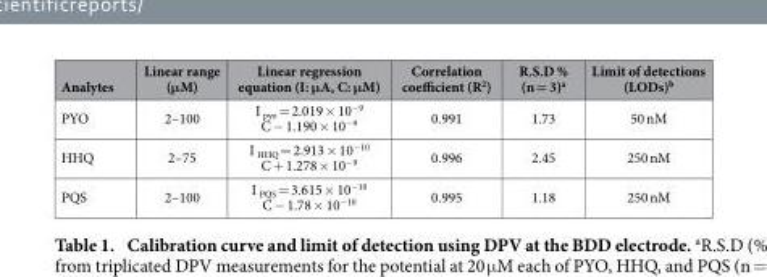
<table><thead><tr><td>Analytes</td><td>Linear range (μM)</td><td>Linear regression equation (I: μA, C: μM)</td><td>Correlation coefficient (R<sup>2</sup>)</td><td>R.S.D % (n = 3)<sup>a</sup></td><td>Limit of detections (LODs)<sup>b</sup></td></tr></thead><tbody><tr><td>PYO</td><td>2–100</td><td>I <sub>pyo</sub> = 2.019 × 10<sup>−9</sup> C − 1.190 × 10<sup>−9</sup></td><td>0.991</td><td>1.73</td><td>50 nM</td></tr><tr><td>HHQ</td><td>2–75</td><td>I <sub>HHQ</sub> = 2.913 × 10<sup>−10</sup> C + 1.278 × 10<sup>−9</sup></td><td>0.996</td><td>2.45</td><td>250 nM</td></tr><tr><td>PQS</td><td>2–100</td><td>I <sub>PQS</sub> = 3.615 × 10<sup>−10</sup> C − 1.78 × 10<sup>−10</sup></td><td>0.995</td><td>1.18</td><td>250 nM</td></tr></tbody></table>